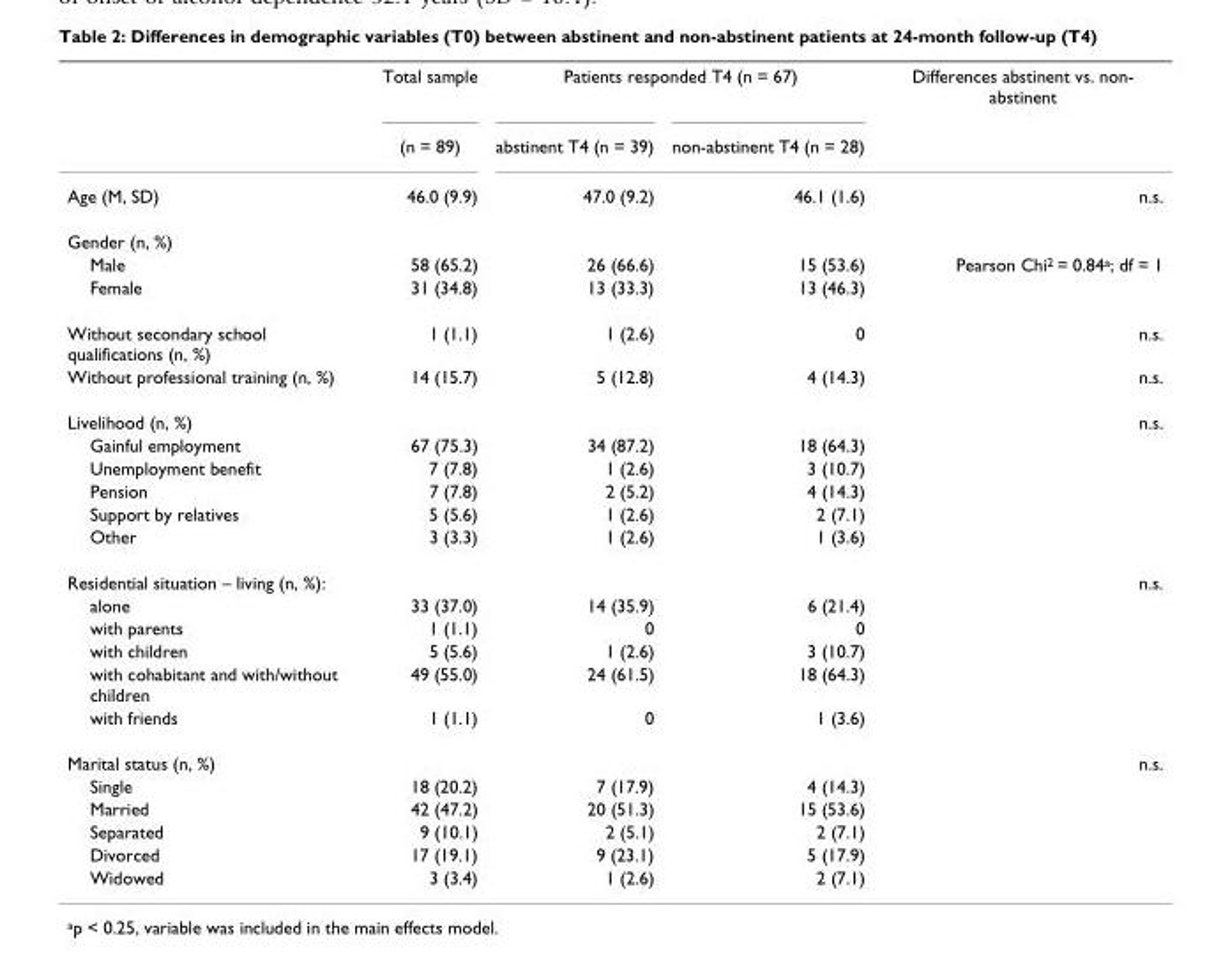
<table><thead><tr><td rowspan="2"></td><td rowspan="2">Total sample (n = 89)</td><td colspan="2">Patients responded T4 (n = 67)</td><td rowspan="2">Differences abstinent vs. non- abstinent</td></tr><tr><td>abstinent T4 (n = 39)</td><td>non-abstinent T4 (n = 28)</td></tr></thead><tbody><tr><td>Age (M, SD)</td><td>46.0 (9.9)</td><td>47.0 (9.2)</td><td>46.1 (1.6)</td><td>n.s.</td></tr><tr><td colspan="5">Gender (n, %)</td></tr><tr><td>Male</td><td>58 (65.2)</td><td>26 (66.6)</td><td>15 (53.6)</td><td>Pearson Chi<sup>2</sup> = 0.84<sup>a</sup>; df = 1</td></tr><tr><td>Female</td><td>31 (34.8)</td><td>13 (33.3)</td><td>13 (46.3)</td><td></td></tr><tr><td>Without secondary school qualifications (n, %)</td><td>1 (1.1)</td><td>1 (2.6)</td><td>0</td><td>n.s.</td></tr><tr><td>Without professional training (n, %)</td><td>14 (15.7)</td><td>5 (12.8)</td><td>4 (14.3)</td><td>n.s.</td></tr><tr><td>Livelihood (n, %)</td><td></td><td></td><td></td><td>n.s.</td></tr><tr><td>Gainful employment</td><td>67 (75.3)</td><td>34 (87.2)</td><td>18 (64.3)</td><td></td></tr><tr><td>Unemployment benefit</td><td>7 (7.8)</td><td>1 (2.6)</td><td>3 (10.7)</td><td></td></tr><tr><td>Pension</td><td>7 (7.8)</td><td>2 (5.2)</td><td>4 (14.3)</td><td></td></tr><tr><td>Support by relatives</td><td>5 (5.6)</td><td>1 (2.6)</td><td>2 (7.1)</td><td></td></tr><tr><td>Other</td><td>3 (3.3)</td><td>1 (2.6)</td><td>1 (3.6)</td><td></td></tr><tr><td>Residential situation – living (n, %):</td><td></td><td></td><td></td><td>n.s.</td></tr><tr><td>alone</td><td>33 (37.0)</td><td>14 (35.9)</td><td>6 (21.4)</td><td></td></tr><tr><td>with parents</td><td>1 (1.1)</td><td>0</td><td>0</td><td></td></tr><tr><td>with children</td><td>5 (5.6)</td><td>1 (2.6)</td><td>3 (10.7)</td><td></td></tr><tr><td>with cohabitant and with/without children</td><td>49 (55.0)</td><td>24 (61.5)</td><td>18 (64.3)</td><td></td></tr><tr><td>with friends</td><td>1 (1.1)</td><td>0</td><td>1 (3.6)</td><td></td></tr><tr><td>Marital status (n, %)</td><td></td><td></td><td></td><td>n.s.</td></tr><tr><td>Single</td><td>18 (20.2)</td><td>7 (17.9)</td><td>4 (14.3)</td><td></td></tr><tr><td>Married</td><td>42 (47.2)</td><td>20 (51.3)</td><td>15 (53.6)</td><td></td></tr><tr><td>Separated</td><td>9 (10.1)</td><td>2 (5.1)</td><td>2 (7.1)</td><td></td></tr><tr><td>Divorced</td><td>17 (19.1)</td><td>9 (23.1)</td><td>5 (17.9)</td><td></td></tr><tr><td>Widowed</td><td>3 (3.4)</td><td>1 (2.6)</td><td>2 (7.1)</td><td></td></tr></tbody></table>